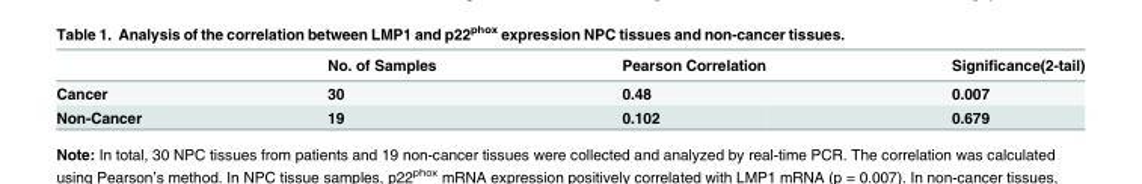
<table><thead><tr><td></td><td>No. of Samples</td><td>Pearson Correlation</td><td>Significance(2-tail)</td></tr></thead><tbody><tr><td>Cancer</td><td>30</td><td>0.48</td><td>0.007</td></tr><tr><td>Non-Cancer</td><td>19</td><td>0.102</td><td>0.679</td></tr></tbody></table>